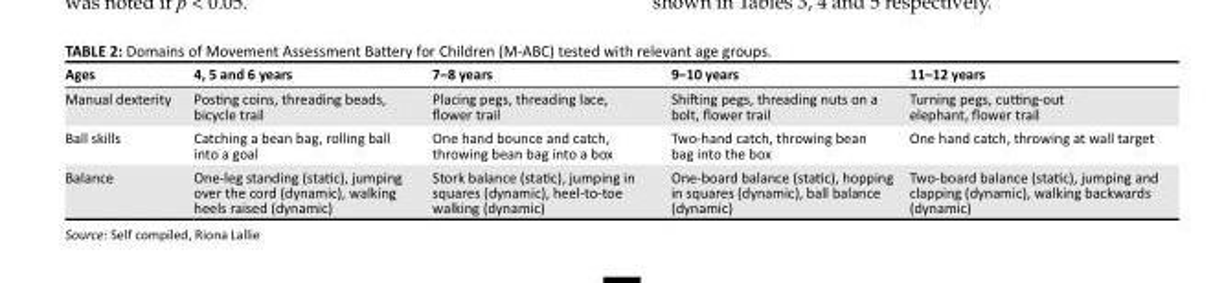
<table><thead><tr><td>Ages</td><td>4, 5 and 6 years</td><td>7–8 years</td><td>9–10 years</td><td>11–12 years</td></tr></thead><tbody><tr><td>Manual dexterity</td><td>Posting coins, threading beads, bicycle trail</td><td>Placing pegs, threading lace, flower trail</td><td>Shifting pegs, threading nuts on a bolt, flower trail</td><td>Turning pegs, cutting-out elephant, flower trail</td></tr><tr><td>Ball skills</td><td>Catching a bean bag, rolling ball into a goal</td><td>One hand bounce and catch, throwing bean bag into a box</td><td>Two-hand catch, throwing bean bag into the box</td><td>One hand catch, throwing at wall target</td></tr><tr><td>Balance</td><td>One-leg standing (static), jumping over the cord (dynamic), walking heels raised (dynamic)</td><td>Stork balance (static), jumping in squares (dynamic), heel-to-toe walking (dynamic)</td><td>One-board balance (static), hopping in squares (dynamic), ball balance (dynamic)</td><td>Two-board balance (static), jumping and clapping (dynamic), walking backwards (dynamic)</td></tr></tbody></table>